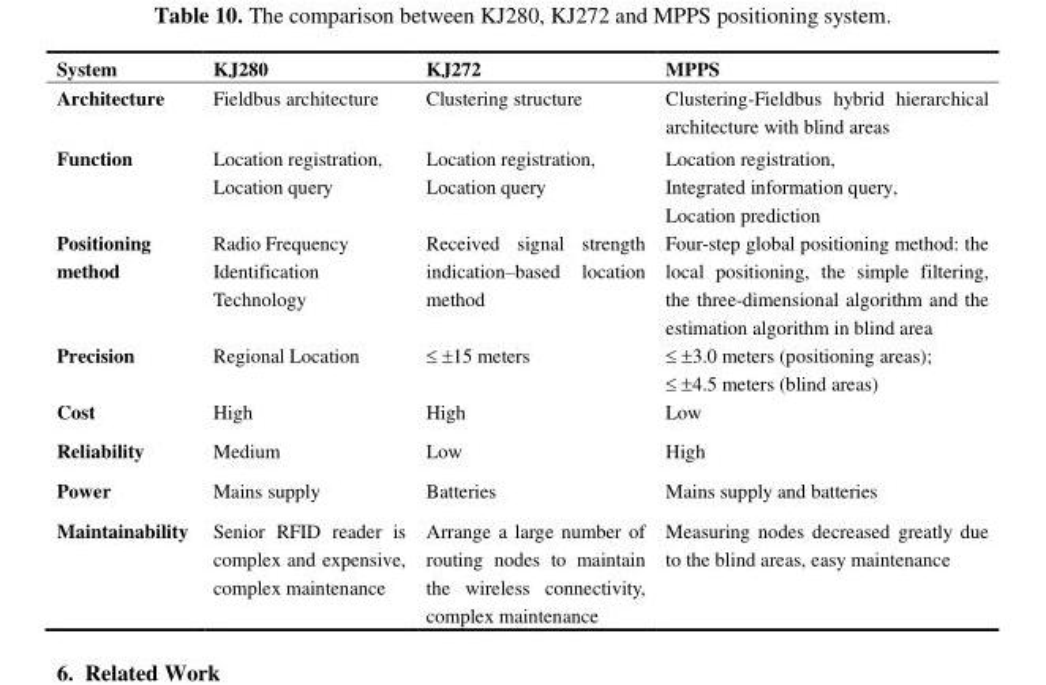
<table><thead><tr><td>System</td><td>KJ280</td><td>KJ272</td><td>MPPS</td></tr></thead><tbody><tr><td>Architecture</td><td>Fieldbus architecture</td><td>Clustering structure</td><td>Clustering-Fieldbus hybrid hierarchical architecture with blind areas</td></tr><tr><td>Function</td><td>Location registration, Location query</td><td>Location registration, Location query</td><td>Location registration, Integrated information query, Location prediction</td></tr><tr><td>Positioning method</td><td>Radio Frequency Identification Technology</td><td>Received signal strength indication–based location method</td><td>Four-step global positioning method: the local positioning, the simple filtering, the three-dimensional algorithm and the estimation algorithm in blind area</td></tr><tr><td>Precision</td><td>Regional Location</td><td>≤ ±15 meters</td><td>≤ ±3.0 meters (positioning areas); ≤ ±4.5 meters (blind areas)</td></tr><tr><td>Cost</td><td>High</td><td>High</td><td>Low</td></tr><tr><td>Reliability</td><td>Medium</td><td>Low</td><td>High</td></tr><tr><td>Power</td><td>Mains supply</td><td>Batteries</td><td>Mains supply and batteries</td></tr><tr><td>Maintainability</td><td>Senior RFID reader is complex and expensive, complex maintenance</td><td>Arrange a large number of routing nodes to maintain the wireless connectivity, complex maintenance</td><td>Measuring nodes decreased greatly due to the blind areas, easy maintenance</td></tr></tbody></table>